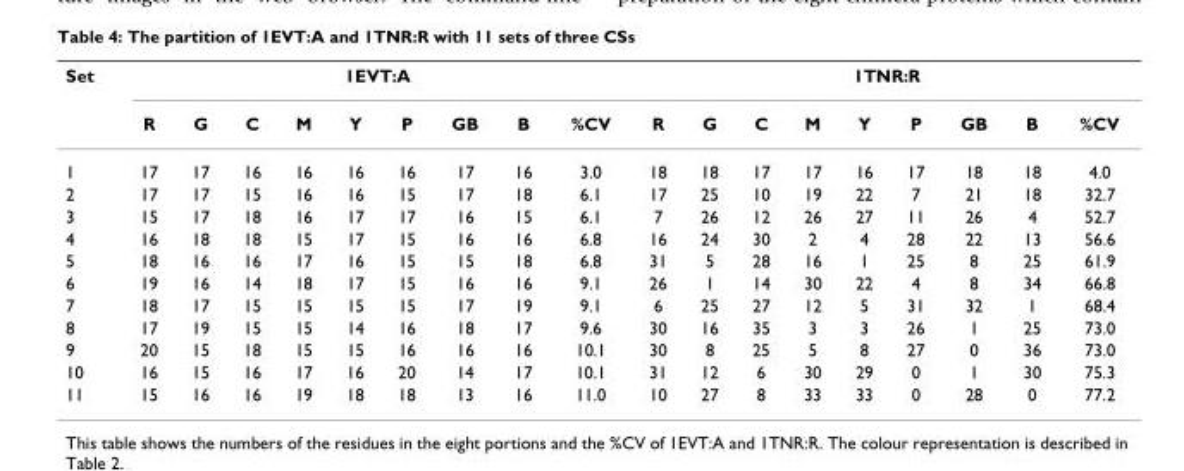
<table><thead><tr><td rowspan="2">Set</td><td colspan="9">1EVT:A</td><td colspan="9">1TNR:R</td></tr><tr><td>R</td><td>G</td><td>C</td><td>M</td><td>Y</td><td>P</td><td>GB</td><td>B</td><td>%CV</td><td>R</td><td>G</td><td>C</td><td>M</td><td>Y</td><td>P</td><td>GB</td><td>B</td><td>%CV</td></tr></thead><tbody><tr><td>1</td><td>17</td><td>17</td><td>16</td><td>16</td><td>16</td><td>16</td><td>17</td><td>16</td><td>3.0</td><td>18</td><td>18</td><td>17</td><td>17</td><td>16</td><td>17</td><td>18</td><td>18</td><td>4.0</td></tr><tr><td>2</td><td>17</td><td>17</td><td>15</td><td>16</td><td>16</td><td>15</td><td>17</td><td>18</td><td>6.1</td><td>17</td><td>25</td><td>10</td><td>19</td><td>22</td><td>7</td><td>21</td><td>18</td><td>32.7</td></tr><tr><td>3</td><td>15</td><td>17</td><td>18</td><td>16</td><td>17</td><td>17</td><td>16</td><td>15</td><td>6.1</td><td>7</td><td>26</td><td>12</td><td>26</td><td>27</td><td>11</td><td>26</td><td>4</td><td>52.7</td></tr><tr><td>4</td><td>16</td><td>18</td><td>18</td><td>15</td><td>17</td><td>15</td><td>16</td><td>16</td><td>6.8</td><td>16</td><td>24</td><td>30</td><td>2</td><td>4</td><td>28</td><td>22</td><td>13</td><td>56.6</td></tr><tr><td>5</td><td>18</td><td>16</td><td>16</td><td>17</td><td>16</td><td>15</td><td>15</td><td>18</td><td>6.8</td><td>31</td><td>5</td><td>28</td><td>16</td><td>1</td><td>25</td><td>8</td><td>25</td><td>61.9</td></tr><tr><td>6</td><td>19</td><td>16</td><td>14</td><td>18</td><td>17</td><td>15</td><td>16</td><td>16</td><td>9.1</td><td>26</td><td>1</td><td>14</td><td>30</td><td>22</td><td>4</td><td>8</td><td>34</td><td>66.8</td></tr><tr><td>7</td><td>18</td><td>17</td><td>15</td><td>15</td><td>15</td><td>15</td><td>17</td><td>19</td><td>9.1</td><td>6</td><td>25</td><td>27</td><td>12</td><td>5</td><td>31</td><td>32</td><td>1</td><td>68.4</td></tr><tr><td>8</td><td>17</td><td>19</td><td>15</td><td>15</td><td>14</td><td>16</td><td>18</td><td>17</td><td>9.6</td><td>30</td><td>16</td><td>35</td><td>3</td><td>3</td><td>26</td><td>1</td><td>25</td><td>73.0</td></tr><tr><td>9</td><td>20</td><td>15</td><td>18</td><td>15</td><td>15</td><td>16</td><td>16</td><td>16</td><td>10.1</td><td>30</td><td>8</td><td>25</td><td>5</td><td>8</td><td>27</td><td>0</td><td>36</td><td>73.0</td></tr><tr><td>10</td><td>16</td><td>15</td><td>16</td><td>17</td><td>16</td><td>20</td><td>14</td><td>17</td><td>10.1</td><td>31</td><td>12</td><td>6</td><td>30</td><td>29</td><td>0</td><td>1</td><td>30</td><td>75.3</td></tr><tr><td>11</td><td>15</td><td>16</td><td>16</td><td>19</td><td>18</td><td>18</td><td>13</td><td>16</td><td>11.0</td><td>10</td><td>27</td><td>8</td><td>33</td><td>33</td><td>0</td><td>28</td><td>0</td><td>77.2</td></tr></tbody></table>